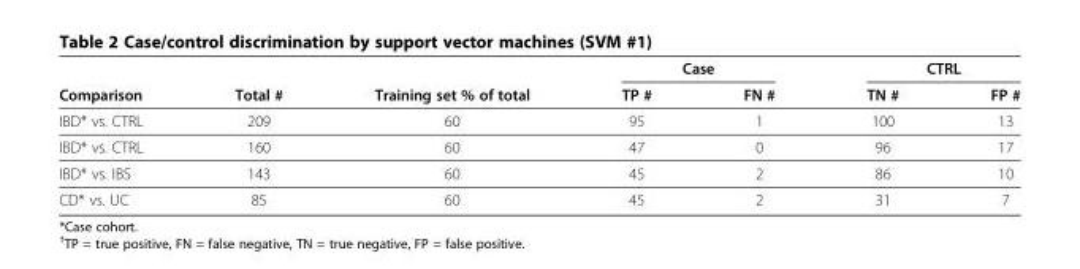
<table><thead><tr><td rowspan="2">Comparison</td><td rowspan="2">Total #</td><td rowspan="2">Training set % of total</td><td colspan="2">Case</td><td colspan="2">CTRL</td></tr><tr><td>TP #</td><td>FN #</td><td>TN #</td><td>FP #</td></tr></thead><tbody><tr><td>IBD* vs. CTRL</td><td>209</td><td>60</td><td>95</td><td>1</td><td>100</td><td>13</td></tr><tr><td>IBD* vs. CTRL</td><td>160</td><td>60</td><td>47</td><td>0</td><td>96</td><td>17</td></tr><tr><td>IBD* vs. IBS</td><td>143</td><td>60</td><td>45</td><td>2</td><td>86</td><td>10</td></tr><tr><td>CD* vs. UC</td><td>85</td><td>60</td><td>45</td><td>2</td><td>31</td><td>7</td></tr></tbody></table>